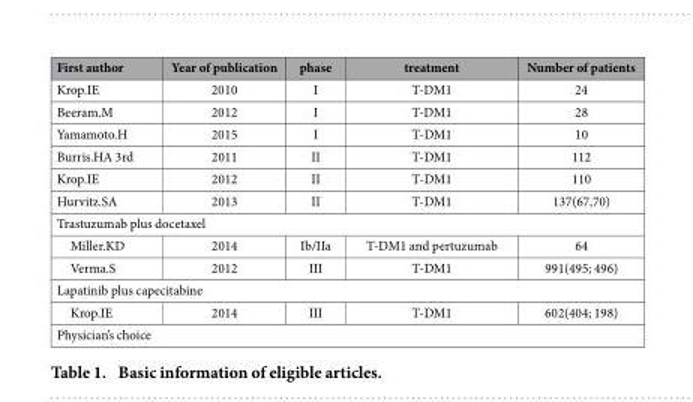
<table><thead><tr><td>First author</td><td>Year of publication</td><td>phase</td><td>treatment</td><td>Number of patients</td></tr></thead><tbody><tr><td>Krop.IE</td><td>2010</td><td>I</td><td>T-DM1</td><td>24</td></tr><tr><td>Beeram.M</td><td>2012</td><td>I</td><td>T-DM1</td><td>28</td></tr><tr><td>Yamamoto.H</td><td>2015</td><td>I</td><td>T-DM1</td><td>10</td></tr><tr><td>Burris.HA 3rd</td><td>2011</td><td>II</td><td>T-DM1</td><td>112</td></tr><tr><td>Krop.IE</td><td>2012</td><td>II</td><td>T-DM1</td><td>110</td></tr><tr><td>Hurvitz.SA</td><td>2013</td><td>II</td><td>T-DM1</td><td>137(67,70)</td></tr><tr><td colspan="5">Trastuzumab plus docetaxel</td></tr><tr><td>Miller.KD</td><td>2014</td><td>Ib/IIa</td><td>T-DM1 and pertuzumab</td><td>64</td></tr><tr><td>Verma.S</td><td>2012</td><td>III</td><td>T-DM1</td><td>991(495; 496)</td></tr><tr><td colspan="5">Lapatinib plus capecitabine</td></tr><tr><td>Krop.IE</td><td>2014</td><td>III</td><td>T-DM1</td><td>602(404; 198)</td></tr><tr><td colspan="5">Physician’s choice</td></tr></tbody></table>